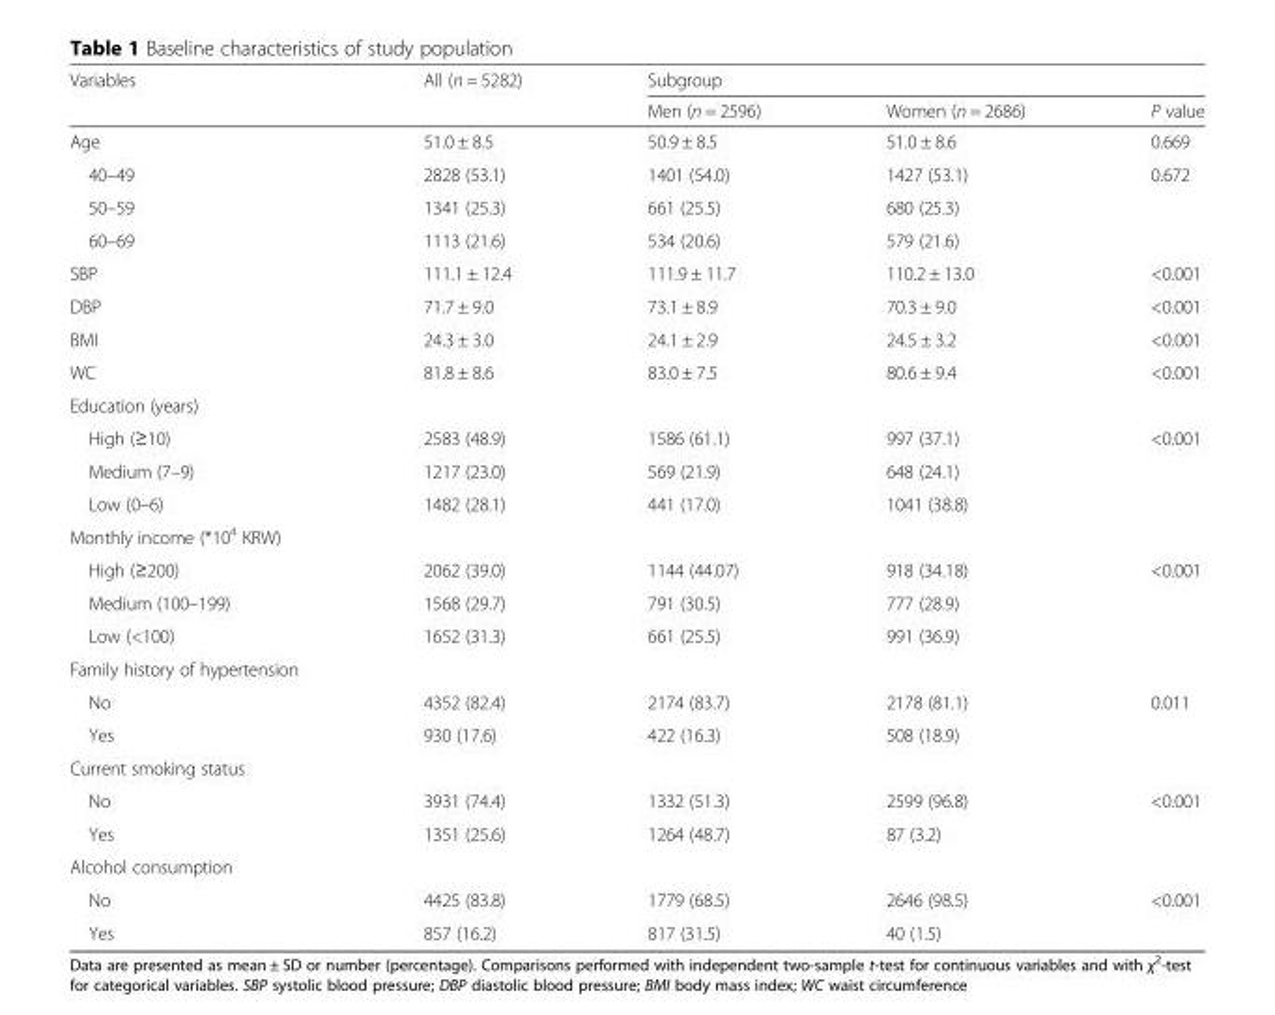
<table><thead><tr><td rowspan="2">Variables</td><td rowspan="2">All (n = 5282)</td><td colspan="3">Subgroup</td></tr><tr><td>Men (n = 2596)</td><td>Women (n = 2686)</td><td>P value</td></tr></thead><tbody><tr><td>Age</td><td>51.0 ± 8.5</td><td>50.9 ± 8.5</td><td>51.0 ± 8.6</td><td>0.669</td></tr><tr><td>40–49</td><td>2828 (53.1)</td><td>1401 (54.0)</td><td>1427 (53.1)</td><td>0.672</td></tr><tr><td>50–59</td><td>1341 (25.3)</td><td>661 (25.5)</td><td>680 (25.3)</td><td></td></tr><tr><td>60–69</td><td>1113 (21.6)</td><td>534 (20.6)</td><td>579 (21.6)</td><td></td></tr><tr><td>SBP</td><td>111.1 ± 12.4</td><td>111.9 ± 11.7</td><td>110.2 ± 13.0</td><td>&lt;0.001</td></tr><tr><td>DBP</td><td>71.7 ± 9.0</td><td>73.1 ± 8.9</td><td>70.3 ± 9.0</td><td>&lt;0.001</td></tr><tr><td>BMI</td><td>24.3 ± 3.0</td><td>24.1 ± 2.9</td><td>24.5 ± 3.2</td><td>&lt;0.001</td></tr><tr><td>WC</td><td>81.8 ± 8.6</td><td>83.0 ± 7.5</td><td>80.6 ± 9.4</td><td>&lt;0.001</td></tr><tr><td colspan="5">Education (years)</td></tr><tr><td>High (≥10)</td><td>2583 (48.9)</td><td>1586 (61.1)</td><td>997 (37.1)</td><td>&lt;0.001</td></tr><tr><td>Medium (7–9)</td><td>1217 (23.0)</td><td>569 (21.9)</td><td>648 (24.1)</td><td></td></tr><tr><td>Low (0–6)</td><td>1482 (28.1)</td><td>441 (17.0)</td><td>1041 (38.8)</td><td></td></tr><tr><td colspan="5">Monthly income (*10<sup>4</sup> KRW)</td></tr><tr><td>High (≥200)</td><td>2062 (39.0)</td><td>1144 (44.07)</td><td>918 (34.18)</td><td>&lt;0.001</td></tr><tr><td>Medium (100–199)</td><td>1568 (29.7)</td><td>791 (30.5)</td><td>777 (28.9)</td><td></td></tr><tr><td>Low (&lt;100)</td><td>1652 (31.3)</td><td>661 (25.5)</td><td>991 (36.9)</td><td></td></tr><tr><td colspan="5">Family history of hypertension</td></tr><tr><td>No</td><td>4352 (82.4)</td><td>2174 (83.7)</td><td>2178 (81.1)</td><td>0.011</td></tr><tr><td>Yes</td><td>930 (17.6)</td><td>422 (16.3)</td><td>508 (18.9)</td><td></td></tr><tr><td colspan="5">Current smoking status</td></tr><tr><td>No</td><td>3931 (74.4)</td><td>1332 (51.3)</td><td>2599 (96.8)</td><td>&lt;0.001</td></tr><tr><td>Yes</td><td>1351 (25.6)</td><td>1264 (48.7)</td><td>87 (3.2)</td><td></td></tr><tr><td colspan="5">Alcohol consumption</td></tr><tr><td>No</td><td>4425 (83.8)</td><td>1779 (68.5)</td><td>2646 (98.5)</td><td>&lt;0.001</td></tr><tr><td>Yes</td><td>857 (16.2)</td><td>817 (31.5)</td><td>40 (1.5)</td><td></td></tr></tbody></table>